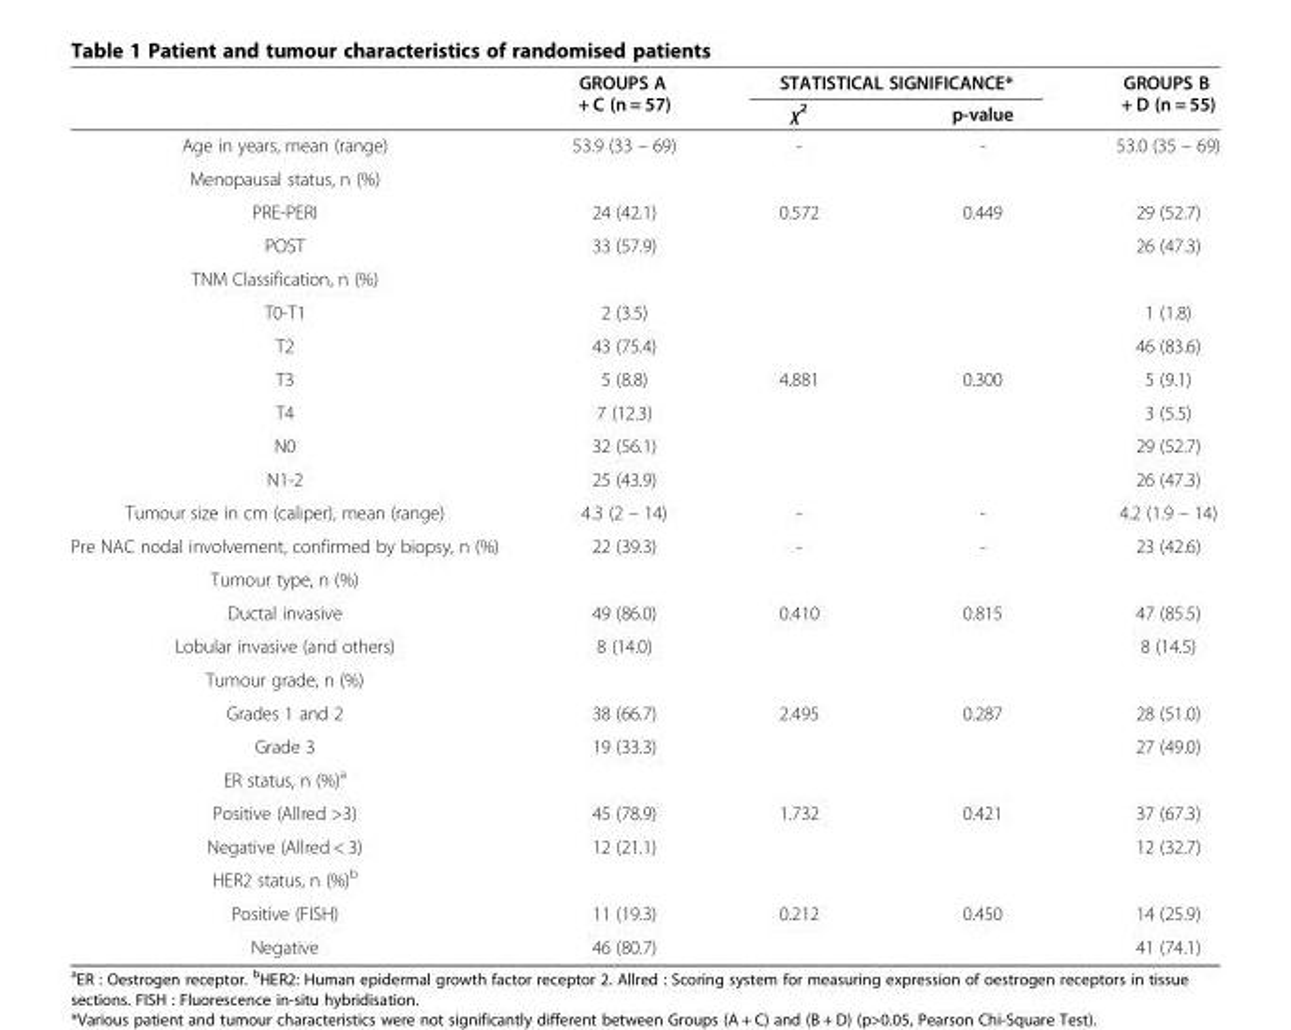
<table><thead><tr><td rowspan="2"></td><td rowspan="2">GROUPS A + C (n = 57)</td><td colspan="2">STATISTICAL SIGNIFICANCE*</td><td rowspan="2">GROUPS B + D (n = 55)</td></tr><tr><td>χ<sup>2</sup></td><td>p-value</td></tr></thead><tbody><tr><td>Age in years, mean (range)</td><td>53.9 (33 – 69)</td><td>-</td><td>-</td><td>53.0 (35 – 69)</td></tr><tr><td colspan="5">Menopausal status, n (%)</td></tr><tr><td>PRE-PERI</td><td>24 (42.1)</td><td>0.572</td><td>0.449</td><td>29 (52.7)</td></tr><tr><td>POST</td><td>33 (57.9)</td><td></td><td></td><td>26 (47.3)</td></tr><tr><td colspan="5">TNM Classification, n (%)</td></tr><tr><td>T0-T1</td><td>2 (3.5)</td><td></td><td></td><td>1 (1.8)</td></tr><tr><td>T2</td><td>43 (75.4)</td><td></td><td></td><td>46 (83.6)</td></tr><tr><td>T3</td><td>5 (8.8)</td><td>4.881</td><td>0.300</td><td>5 (9.1)</td></tr><tr><td>T4</td><td>7 (12.3)</td><td></td><td></td><td>3 (5.5)</td></tr><tr><td>N0</td><td>32 (56.1)</td><td></td><td></td><td>29 (52.7)</td></tr><tr><td>N1-2</td><td>25 (43.9)</td><td></td><td></td><td>26 (47.3)</td></tr><tr><td>Tumour size in cm (caliper), mean (range)</td><td>4.3 (2 – 14)</td><td>-</td><td>-</td><td>4.2 (1.9 – 14)</td></tr><tr><td>Pre NAC nodal involvement, confirmed by biopsy, n (%)</td><td>22 (39.3)</td><td>-</td><td>-</td><td>23 (42.6)</td></tr><tr><td colspan="5">Tumour type, n (%)</td></tr><tr><td>Ductal invasive</td><td>49 (86.0)</td><td>0.410</td><td>0.815</td><td>47 (85.5)</td></tr><tr><td>Lobular invasive (and others)</td><td>8 (14.0)</td><td></td><td></td><td>8 (14.5)</td></tr><tr><td colspan="5">Tumour grade, n (%)</td></tr><tr><td>Grades 1 and 2</td><td>38 (66.7)</td><td>2.495</td><td>0.287</td><td>28 (51.0)</td></tr><tr><td>Grade 3</td><td>19 (33.3)</td><td></td><td></td><td>27 (49.0)</td></tr><tr><td colspan="5">ER status, n (%)<sup>a</sup></td></tr><tr><td>Positive (Allred &gt;3)</td><td>45 (78.9)</td><td>1.732</td><td>0.421</td><td>37 (67.3)</td></tr><tr><td>Negative (Allred &lt; 3)</td><td>12 (21.1)</td><td></td><td></td><td>12 (32.7)</td></tr><tr><td colspan="5">HER2 status, n (%)<sup>b</sup></td></tr><tr><td>Positive (FISH)</td><td>11 (19.3)</td><td>0.212</td><td>0.450</td><td>14 (25.9)</td></tr><tr><td>Negative</td><td>46 (80.7)</td><td></td><td></td><td>41 (74.1)</td></tr></tbody></table>